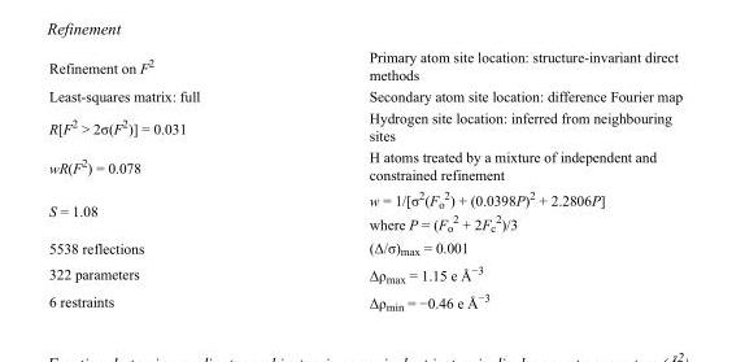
<table><tbody><tr><td>Refinement on F<sup>2</sup></td><td>Primary atom site location: structure-invariant direct methods</td></tr><tr><td>Least-squares matrix: full</td><td>Secondary atom site location: difference Fourier map</td></tr><tr><td>R[F<sup>2</sup> &gt; 2σ(F<sup>2</sup>)] = 0.031</td><td>Hydrogen site location: inferred from neighbouring sites</td></tr><tr><td>wR(F<sup>2</sup>) = 0.078</td><td>H atoms treated by a mixture of independent and constrained refinement</td></tr><tr><td>S = 1.08</td><td>w = 1/[σ<sup>2</sup>(F<sub>o</sub> <sup>2</sup>) + (0.0398P)<sup>2</sup> + 2.2806P] where P = (F<sub>o</sub> <sup>2</sup> + 2F<sub>c</sub> <sup>2</sup>)/3</td></tr><tr><td>5538 reflections</td><td>(Δ/σ)<sub>max</sub> = 0.001</td></tr><tr><td>322 parameters</td><td>Δρ<sub>max</sub> = 1.15 e Å<sup>−3</sup></td></tr><tr><td>6 restraints</td><td>Δρ<sub>min</sub> = −0.46 e Å<sup>−3</sup></td></tr></tbody></table>